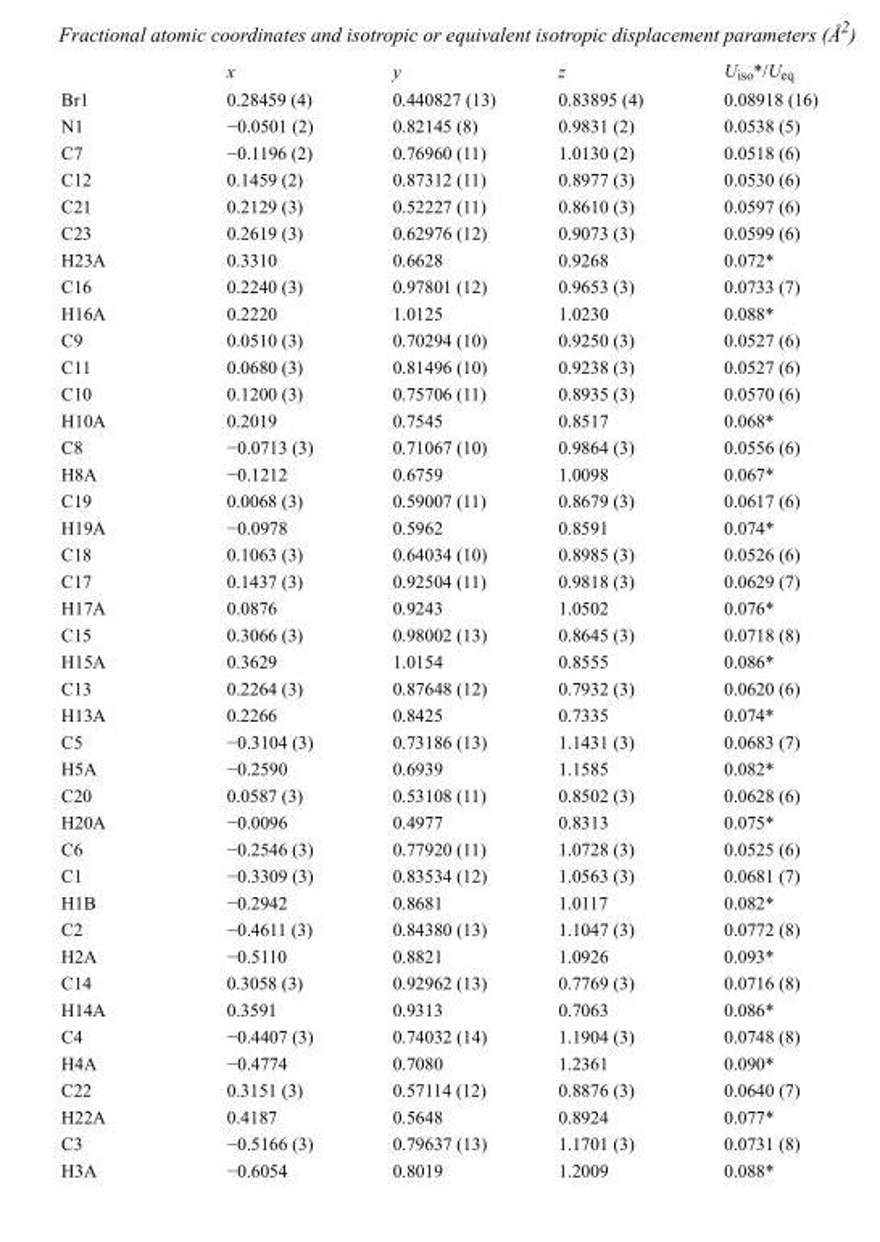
<table><thead><tr><td></td><td>x</td><td>y</td><td>z</td><td>U<sub>iso</sub>*/U<sub>eq</sub></td></tr></thead><tbody><tr><td>Br1</td><td>0.28459 (4)</td><td>0.440827 (13)</td><td>0.83895 (4)</td><td>0.08918 (16)</td></tr><tr><td>N1</td><td>−0.0501 (2)</td><td>0.82145 (8)</td><td>0.9831 (2)</td><td>0.0538 (5)</td></tr><tr><td>C7</td><td>−0.1196 (2)</td><td>0.76960 (11)</td><td>1.0130 (2)</td><td>0.0518 (6)</td></tr><tr><td>C12</td><td>0.1459 (2)</td><td>0.87312 (11)</td><td>0.8977 (3)</td><td>0.0530 (6)</td></tr><tr><td>C21</td><td>0.2129 (3)</td><td>0.52227 (11)</td><td>0.8610 (3)</td><td>0.0597 (6)</td></tr><tr><td>C23</td><td>0.2619 (3)</td><td>0.62976 (12)</td><td>0.9073 (3)</td><td>0.0599 (6)</td></tr><tr><td>H23A</td><td>0.3310</td><td>0.6628</td><td>0.9268</td><td>0.072*</td></tr><tr><td>C16</td><td>0.2240 (3)</td><td>0.97801 (12)</td><td>0.9653 (3)</td><td>0.0733 (7)</td></tr><tr><td>H16A</td><td>0.2220</td><td>1.0125</td><td>1.0230</td><td>0.088*</td></tr><tr><td>C9</td><td>0.0510 (3)</td><td>0.70294 (10)</td><td>0.9250 (3)</td><td>0.0527 (6)</td></tr><tr><td>C11</td><td>0.0680 (3)</td><td>0.81496 (10)</td><td>0.9238 (3)</td><td>0.0527 (6)</td></tr><tr><td>C10</td><td>0.1200 (3)</td><td>0.75706 (11)</td><td>0.8935 (3)</td><td>0.0570 (6)</td></tr><tr><td>H10A</td><td>0.2019</td><td>0.7545</td><td>0.8517</td><td>0.068*</td></tr><tr><td>C8</td><td>−0.0713 (3)</td><td>0.71067 (10)</td><td>0.9864 (3)</td><td>0.0556 (6)</td></tr><tr><td>H8A</td><td>−0.1212</td><td>0.6759</td><td>1.0098</td><td>0.067*</td></tr><tr><td>C19</td><td>0.0068 (3)</td><td>0.59007 (11)</td><td>0.8679 (3)</td><td>0.0617 (6)</td></tr><tr><td>H19A</td><td>−0.0978</td><td>0.5962</td><td>0.8591</td><td>0.074*</td></tr><tr><td>C18</td><td>0.1063 (3)</td><td>0.64034 (10)</td><td>0.8985 (3)</td><td>0.0526 (6)</td></tr><tr><td>C17</td><td>0.1437 (3)</td><td>0.92504 (11)</td><td>0.9818 (3)</td><td>0.0629 (7)</td></tr><tr><td>H17A</td><td>0.0876</td><td>0.9243</td><td>1.0502</td><td>0.076*</td></tr><tr><td>C15</td><td>0.3066 (3)</td><td>0.98002 (13)</td><td>0.8645 (3)</td><td>0.0718 (8)</td></tr><tr><td>H15A</td><td>0.3629</td><td>1.0154</td><td>0.8555</td><td>0.086*</td></tr><tr><td>C13</td><td>0.2264 (3)</td><td>0.87648 (12)</td><td>0.7932 (3)</td><td>0.0620 (6)</td></tr><tr><td>H13A</td><td>0.2266</td><td>0.8425</td><td>0.7335</td><td>0.074*</td></tr><tr><td>C5</td><td>−0.3104 (3)</td><td>0.73186 (13)</td><td>1.1431 (3)</td><td>0.0683 (7)</td></tr><tr><td>H5A</td><td>−0.2590</td><td>0.6939</td><td>1.1585</td><td>0.082*</td></tr><tr><td>C20</td><td>0.0587 (3)</td><td>0.53108 (11)</td><td>0.8502 (3)</td><td>0.0628 (6)</td></tr><tr><td>H20A</td><td>−0.0096</td><td>0.4977</td><td>0.8313</td><td>0.075*</td></tr><tr><td>C6</td><td>−0.2546 (3)</td><td>0.77920 (11)</td><td>1.0728 (3)</td><td>0.0525 (6)</td></tr><tr><td>C1</td><td>−0.3309 (3)</td><td>0.83534 (12)</td><td>1.0563 (3)</td><td>0.0681 (7)</td></tr><tr><td>H1B</td><td>−0.2942</td><td>0.8681</td><td>1.0117</td><td>0.082*</td></tr><tr><td>C2</td><td>−0.4611 (3)</td><td>0.84380 (13)</td><td>1.1047 (3)</td><td>0.0772 (8)</td></tr><tr><td>H2A</td><td>−0.5110</td><td>0.8821</td><td>1.0926</td><td>0.093*</td></tr><tr><td>C14</td><td>0.3058 (3)</td><td>0.92962 (13)</td><td>0.7769 (3)</td><td>0.0716 (8)</td></tr><tr><td>H14A</td><td>0.3591</td><td>0.9313</td><td>0.7063</td><td>0.086*</td></tr><tr><td>C4</td><td>−0.4407 (3)</td><td>0.74032 (14)</td><td>1.1904 (3)</td><td>0.0748 (8)</td></tr><tr><td>H4A</td><td>−0.4774</td><td>0.7080</td><td>1.2361</td><td>0.090*</td></tr><tr><td>C22</td><td>0.3151 (3)</td><td>0.57114 (12)</td><td>0.8876 (3)</td><td>0.0640 (7)</td></tr><tr><td>H22A</td><td>0.4187</td><td>0.5648</td><td>0.8924</td><td>0.077*</td></tr><tr><td>C3</td><td>−0.5166 (3)</td><td>0.79637 (13)</td><td>1.1701 (3)</td><td>0.0731 (8)</td></tr><tr><td>H3A</td><td>−0.6054</td><td>0.8019</td><td>1.2009</td><td>0.088*</td></tr></tbody></table>